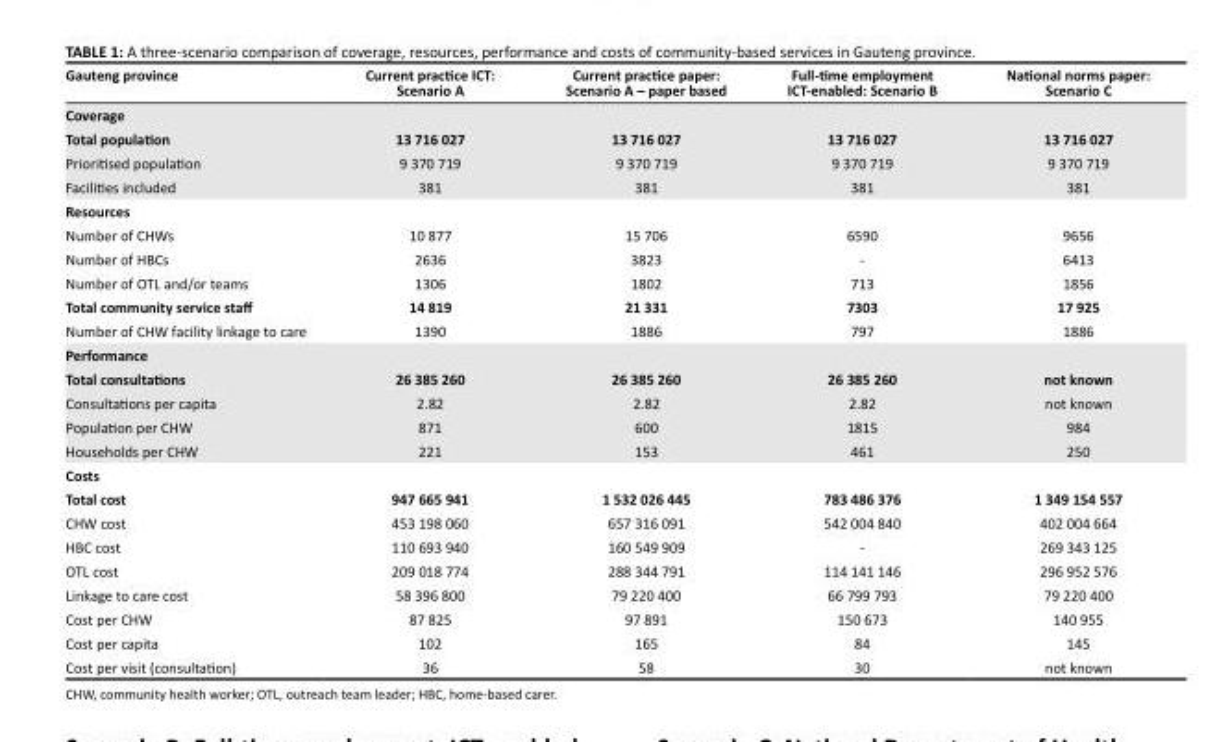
<table><thead><tr><td>Gauteng province</td><td>Current practice ICT: Scenario A</td><td>Current practice paper: Scenario A – paper based</td><td>Full-time employment ICT-enabled: Scenario B</td><td>National norms paper: Scenario C</td></tr></thead><tbody><tr><td colspan="5">Coverage</td></tr><tr><td>Total population</td><td>13 716 027</td><td>13 716 027</td><td>13 716 027</td><td>13 716 027</td></tr><tr><td>Prioritised population</td><td>9 370 719</td><td>9 370 719</td><td>9 370 719</td><td>9 370 719</td></tr><tr><td>Facilities included</td><td>381</td><td>381</td><td>381</td><td>381</td></tr><tr><td colspan="5">Resources</td></tr><tr><td>Number of CHWs</td><td>10 877</td><td>15 706</td><td>6590</td><td>9656</td></tr><tr><td>Number of HBCs</td><td>2636</td><td>3823</td><td>-</td><td>6413</td></tr><tr><td>Number of OTL and/or teams</td><td>1306</td><td>1802</td><td>713</td><td>1856</td></tr><tr><td>Total community service staff</td><td>14 819</td><td>21 331</td><td>7303</td><td>17 925</td></tr><tr><td>Number of CHW facility linkage to care</td><td>1390</td><td>1886</td><td>797</td><td>1886</td></tr><tr><td colspan="5">Performance</td></tr><tr><td>Total consultations</td><td>26 385 260</td><td>26 385 260</td><td>26 385 260</td><td>not known</td></tr><tr><td>Consultations per capita</td><td>2.82</td><td>2.82</td><td>2.82</td><td>not known</td></tr><tr><td>Population per CHW</td><td>871</td><td>600</td><td>1815</td><td>984</td></tr><tr><td>Households per CHW</td><td>221</td><td>153</td><td>461</td><td>250</td></tr><tr><td colspan="5">Costs</td></tr><tr><td>Total cost</td><td>947 665 941</td><td>1 532 026 445</td><td>783 486 376</td><td>1 349 154 557</td></tr><tr><td>CHW cost</td><td>453 198 060</td><td>657 316 091</td><td>542 004 840</td><td>402 004 664</td></tr><tr><td>HBC cost</td><td>110 693 940</td><td>160 549 909</td><td>-</td><td>269 343 125</td></tr><tr><td>OTL cost</td><td>209 018 774</td><td>288 344 791</td><td>114 141 146</td><td>296 952 576</td></tr><tr><td>Linkage to care cost</td><td>58 396 800</td><td>79 220 400</td><td>66 799 793</td><td>79 220 400</td></tr><tr><td>Cost per CHW</td><td>87 825</td><td>97 891</td><td>150 673</td><td>140 955</td></tr><tr><td>Cost per capita</td><td>102</td><td>165</td><td>84</td><td>145</td></tr><tr><td>Cost per visit (consultation)</td><td>36</td><td>58</td><td>30</td><td>not known</td></tr></tbody></table>